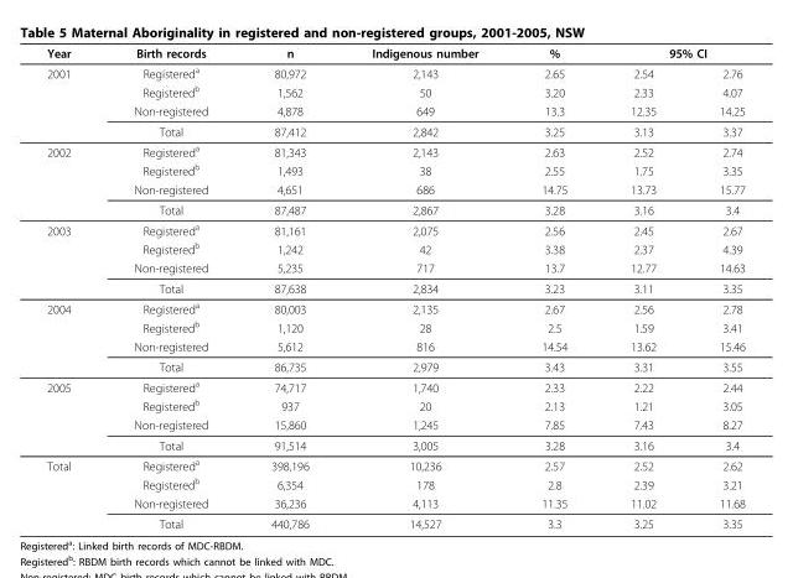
<table><tbody><tr><td>Year</td><td>Birth records</td><td>n</td><td>Indigenous number</td><td>%</td><td colspan="2">95% CI</td></tr><tr><td rowspan="4">2001</td><td>Registereda</td><td>80,972</td><td>2,143</td><td>2.65</td><td>2.54</td><td>2.76</td></tr><tr><td>Registeredb</td><td>1,562</td><td>50</td><td>3.20</td><td>2.33</td><td>4.07</td></tr><tr><td>Non-registered</td><td>4,878</td><td>649</td><td>13.3</td><td>12.35</td><td>14.25</td></tr><tr><td>Total</td><td>87,412</td><td>2,842</td><td>3.25</td><td>3.13</td><td>3.37</td></tr><tr><td rowspan="4">2002</td><td>Registereda</td><td>81,343</td><td>2,143</td><td>2.63</td><td>2.52</td><td>2.74</td></tr><tr><td>Registeredb</td><td>1,493</td><td>38</td><td>2.55</td><td>1.75</td><td>3.35</td></tr><tr><td>Non-registered</td><td>4,651</td><td>686</td><td>14.75</td><td>13.73</td><td>15.77</td></tr><tr><td>Total</td><td>87,487</td><td>2,867</td><td>3.28</td><td>3.16</td><td>3.4</td></tr><tr><td rowspan="4">2003</td><td>Registereda</td><td>81,161</td><td>2,075</td><td>2.56</td><td>2.45</td><td>2.67</td></tr><tr><td>Registeredb</td><td>1,242</td><td>42</td><td>3.38</td><td>2.37</td><td>4.39</td></tr><tr><td>Non-registered</td><td>5,235</td><td>717</td><td>13.7</td><td>12.77</td><td>14.63</td></tr><tr><td>Total</td><td>87,638</td><td>2,834</td><td>3.23</td><td>3.11</td><td>3.35</td></tr><tr><td rowspan="4">2004</td><td>Registereda</td><td>80,003</td><td>2,135</td><td>2.67</td><td>2.56</td><td>2.78</td></tr><tr><td>Registeredb</td><td>1,120</td><td>28</td><td>2.5</td><td>1.59</td><td>3.41</td></tr><tr><td>Non-registered</td><td>5,612</td><td>816</td><td>14.54</td><td>13.62</td><td>15.46</td></tr><tr><td>Total</td><td>86,735</td><td>2,979</td><td>3.43</td><td>3.31</td><td>3.55</td></tr><tr><td rowspan="4">2005</td><td>Registereda</td><td>74,717</td><td>1,740</td><td>2.33</td><td>2.22</td><td>2.44</td></tr><tr><td>Registeredb</td><td>937</td><td>20</td><td>2.13</td><td>1.21</td><td>3.05</td></tr><tr><td>Non-registered</td><td>15,860</td><td>1,245</td><td>7.85</td><td>7.43</td><td>8.27</td></tr><tr><td>Total</td><td>91,514</td><td>3,005</td><td>3.28</td><td>3.16</td><td>3.4</td></tr><tr><td rowspan="4">Total</td><td>Registereda</td><td>398,196</td><td>10,236</td><td>2.57</td><td>2.52</td><td>2.62</td></tr><tr><td>Registeredb</td><td>6,354</td><td>178</td><td>2.8</td><td>2.39</td><td>3.21</td></tr><tr><td>Non-registered</td><td>36,236</td><td>4,113</td><td>11.35</td><td>11.02</td><td>11.68</td></tr><tr><td>Total</td><td>440,786</td><td>14,527</td><td>3.3</td><td>3.25</td><td>3.35</td></tr></tbody></table>